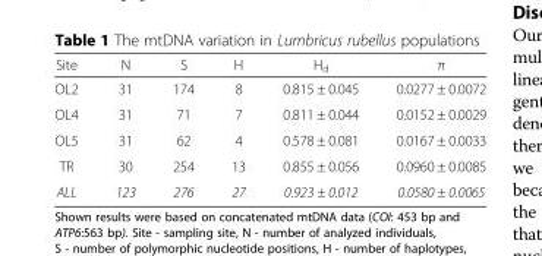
<table><thead><tr><td>Site</td><td>N</td><td>S</td><td>H</td><td>H<sub>d</sub></td><td>π</td></tr></thead><tbody><tr><td>OL2</td><td>31</td><td>174</td><td>8</td><td>0.815 ± 0.045</td><td>0.0277 ± 0.0072</td></tr><tr><td>OL4</td><td>31</td><td>71</td><td>7</td><td>0.811 ± 0.044</td><td>0.0152 ± 0.0029</td></tr><tr><td>OL5</td><td>31</td><td>62</td><td>4</td><td>0.578 ± 0.081</td><td>0.0167 ± 0.0033</td></tr><tr><td>TR</td><td>30</td><td>254</td><td>13</td><td>0.855 ± 0.056</td><td>0.0960 ± 0.0085</td></tr><tr><td>ALL</td><td>123</td><td>276</td><td>27</td><td>0.923 ± 0.012</td><td>0.0580 ± 0.0065</td></tr></tbody></table>